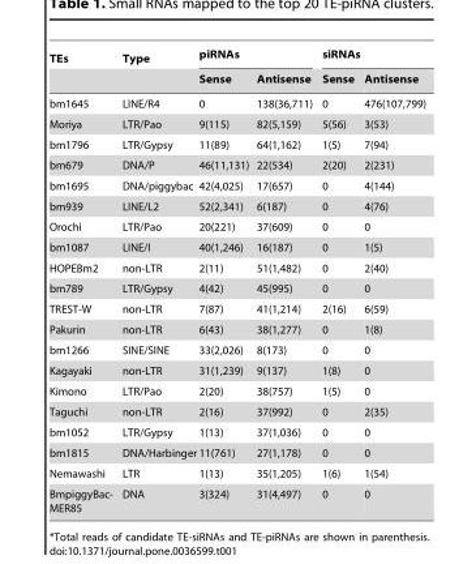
<table><thead><tr><td rowspan="2">TEs</td><td rowspan="2">Type</td><td colspan="2">piRNAs</td><td colspan="2">siRNAs</td></tr><tr><td>Sense</td><td>Antisense</td><td>Sense</td><td>Antisense</td></tr></thead><tbody><tr><td>bm1645</td><td>LINE/R4</td><td>0</td><td>138(36,711)</td><td>0</td><td>476(107,799)</td></tr><tr><td>Moriya</td><td>LTR/Pao</td><td>9(115)</td><td>82(5,159)</td><td>5(56)</td><td>3(53)</td></tr><tr><td>bm1796</td><td>LTR/Gypsy</td><td>11(89)</td><td>64(1,162)</td><td>1(5)</td><td>7(94)</td></tr><tr><td>bm679</td><td>DNA/P</td><td>46(11,131)</td><td>22(534)</td><td>2(20)</td><td>2(231)</td></tr><tr><td>bm1695</td><td>DNA/piggybac</td><td>42(4,025)</td><td>17(657)</td><td>0</td><td>4(144)</td></tr><tr><td>bm939</td><td>LINE/L2</td><td>52(2,341)</td><td>6(187)</td><td>0</td><td>4(76)</td></tr><tr><td>Orochi</td><td>LTR/Pao</td><td>20(221)</td><td>37(609)</td><td>0</td><td>0</td></tr><tr><td>bm1087</td><td>LINE/I</td><td>40(1,246)</td><td>16(187)</td><td>0</td><td>1(5)</td></tr><tr><td>HOPEBm2</td><td>non-LTR</td><td>2(11)</td><td>51(1,482)</td><td>0</td><td>2(40)</td></tr><tr><td>bm789</td><td>LTR/Gypsy</td><td>4(42)</td><td>45(995)</td><td>0</td><td>0</td></tr><tr><td>TREST-W</td><td>non-LTR</td><td>7(87)</td><td>41(1,214)</td><td>2(16)</td><td>6(59)</td></tr><tr><td>Pakurin</td><td>non-LTR</td><td>6(43)</td><td>38(1,277)</td><td>0</td><td>1(8)</td></tr><tr><td>bm1266</td><td>SINE/SINE</td><td>33(2,026)</td><td>8(173)</td><td>0</td><td>0</td></tr><tr><td>Kagayaki</td><td>non-LTR</td><td>31(1,239)</td><td>9(137)</td><td>1(8)</td><td>0</td></tr><tr><td>Kimono</td><td>LTR/Pao</td><td>2(20)</td><td>38(757)</td><td>1(5)</td><td>0</td></tr><tr><td>Taguchi</td><td>non-LTR</td><td>2(16)</td><td>37(992)</td><td>0</td><td>2(35)</td></tr><tr><td>bm1052</td><td>LTR/Gypsy</td><td>1(13)</td><td>37(1,036)</td><td>0</td><td>0</td></tr><tr><td>bm1815</td><td>DNA/Harbinger</td><td>11(761)</td><td>27(1,178)</td><td>0</td><td>0</td></tr><tr><td>Nemawashi</td><td>LTR</td><td>1(13)</td><td>35(1,205)</td><td>1(6)</td><td>1(54)</td></tr><tr><td>BmpiggyBac- MER85</td><td>DNA</td><td>3(324)</td><td>31(4,497)</td><td>0</td><td>0</td></tr></tbody></table>